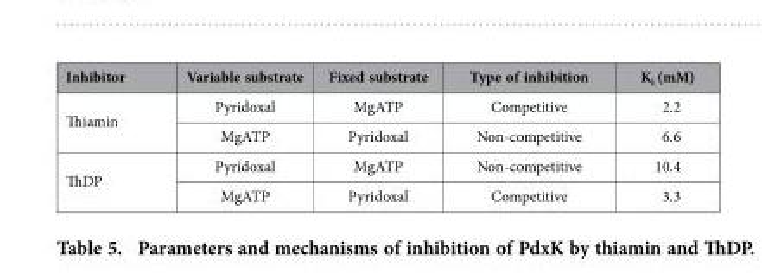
<table><thead><tr><td>Inhibitor</td><td>Variable substrate</td><td>Fixed substrate</td><td>Type of inhibition</td><td>K<sub>i</sub> (mM)</td></tr></thead><tbody><tr><td rowspan="2">Thiamin</td><td>Pyridoxal</td><td>MgATP</td><td>Competitive</td><td>2.2</td></tr><tr><td>MgATP</td><td>Pyridoxal</td><td>Non-competitive</td><td>6.6</td></tr><tr><td rowspan="2">ThDP</td><td>Pyridoxal</td><td>MgATP</td><td>Non-competitive</td><td>10.4</td></tr><tr><td>MgATP</td><td>Pyridoxal</td><td>Competitive</td><td>3.3</td></tr></tbody></table>